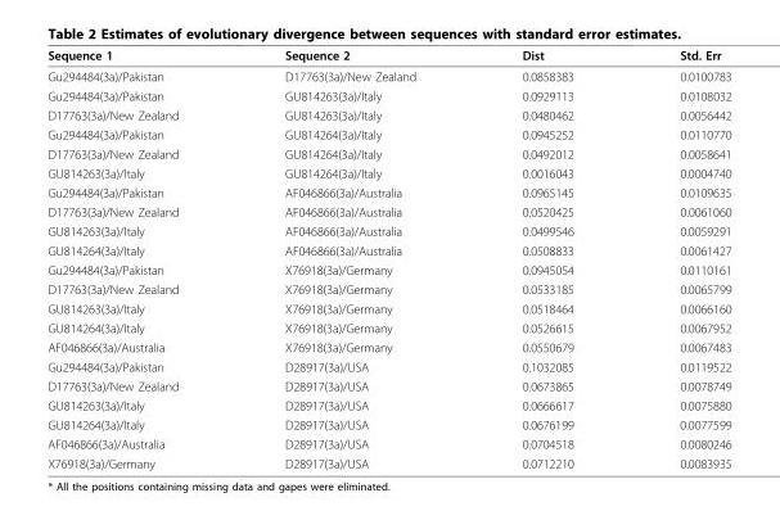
<table><thead><tr><td>Sequence 1</td><td>Sequence 2</td><td>Dist</td><td>Std. Err</td></tr></thead><tbody><tr><td>Gu294484(3a)/Pakistan</td><td>D17763(3a)/New Zealand</td><td>0.0858383</td><td>0.0100783</td></tr><tr><td>Gu294484(3a)/Pakistan</td><td>GU814263(3a)/Italy</td><td>0.0929113</td><td>0.0108032</td></tr><tr><td>D17763(3a)/New Zealand</td><td>GU814263(3a)/Italy</td><td>0.0480462</td><td>0.0056442</td></tr><tr><td>Gu294484(3a)/Pakistan</td><td>GU814264(3a)/Italy</td><td>0.0945252</td><td>0.0110770</td></tr><tr><td>D17763(3a)/New Zealand</td><td>GU814264(3a)/Italy</td><td>0.0492012</td><td>0.0058641</td></tr><tr><td>GU814263(3a)/Italy</td><td>GU814264(3a)/Italy</td><td>0.0016043</td><td>0.0004740</td></tr><tr><td>Gu294484(3a)/Pakistan</td><td>AF046866(3a)/Australia</td><td>0.0965145</td><td>0.0109635</td></tr><tr><td>D17763(3a)/New Zealand</td><td>AF046866(3a)/Australia</td><td>0.0520425</td><td>0.0061060</td></tr><tr><td>GU814263(3a)/Italy</td><td>AF046866(3a)/Australia</td><td>0.0499546</td><td>0.0059291</td></tr><tr><td>GU814264(3a)/Italy</td><td>AF046866(3a)/Australia</td><td>0.0508833</td><td>0.0061427</td></tr><tr><td>Gu294484(3a)/Pakistan</td><td>X76918(3a)/Germany</td><td>0.0945054</td><td>0.0110161</td></tr><tr><td>D17763(3a)/New Zealand</td><td>X76918(3a)/Germany</td><td>0.0533185</td><td>0.0065799</td></tr><tr><td>GU814263(3a)/Italy</td><td>X76918(3a)/Germany</td><td>0.0518464</td><td>0.0066160</td></tr><tr><td>GU814264(3a)/Italy</td><td>X76918(3a)/Germany</td><td>0.0526615</td><td>0.0067952</td></tr><tr><td>AF046866(3a)/Australia</td><td>X76918(3a)/Germany</td><td>0.0550679</td><td>0.0067483</td></tr><tr><td>Gu294484(3a)/Pakistan</td><td>D28917(3a)/USA</td><td>0.1032085</td><td>0.0119522</td></tr><tr><td>D17763(3a)/New Zealand</td><td>D28917(3a)/USA</td><td>0.0673865</td><td>0.0078749</td></tr><tr><td>GU814263(3a)/Italy</td><td>D28917(3a)/USA</td><td>0.0666617</td><td>0.0075880</td></tr><tr><td>GU814264(3a)/Italy</td><td>D28917(3a)/USA</td><td>0.0676199</td><td>0.0077599</td></tr><tr><td>AF046866(3a)/Australia</td><td>D28917(3a)/USA</td><td>0.0704518</td><td>0.0080246</td></tr><tr><td>X76918(3a)/Germany</td><td>D28917(3a)/USA</td><td>0.0712210</td><td>0.0083935</td></tr></tbody></table>